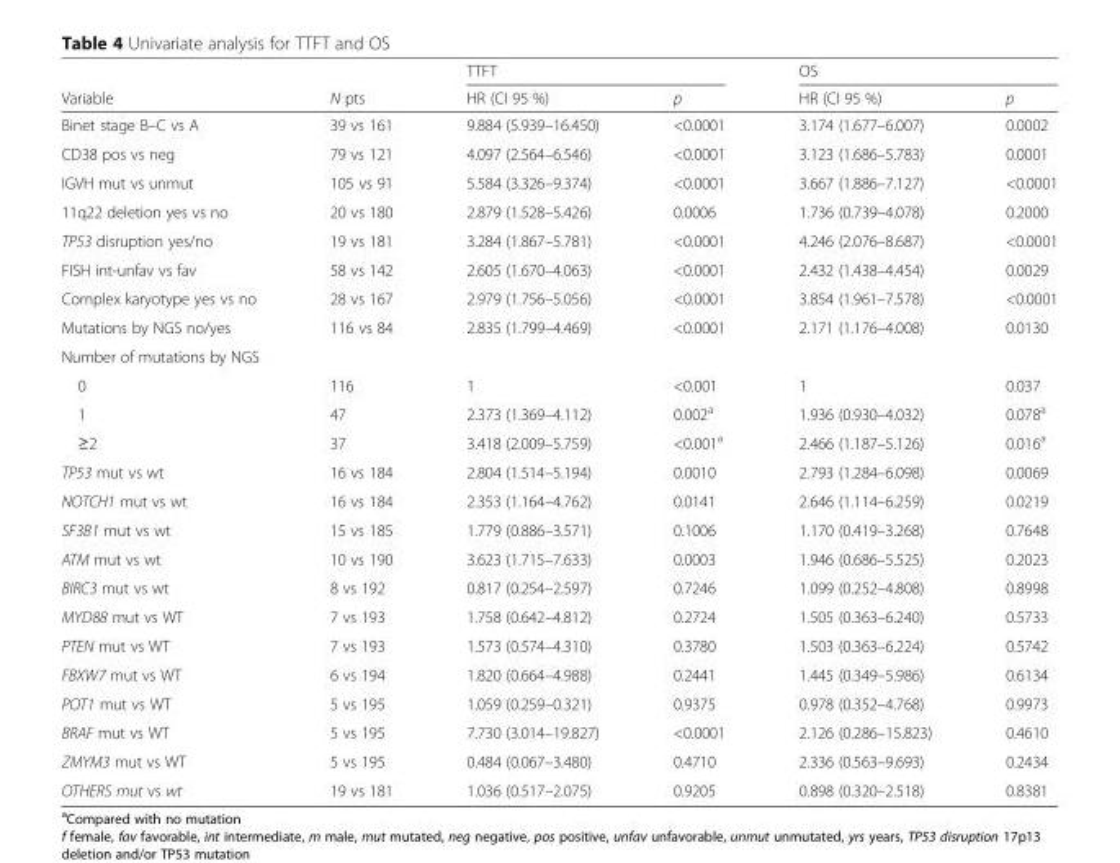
<table><thead><tr><td rowspan="2">Variable</td><td rowspan="2">N pts</td><td colspan="2">TTFT</td><td colspan="2">OS</td></tr><tr><td>HR (CI 95 %)</td><td>p</td><td>HR (CI 95 %)</td><td>p</td></tr></thead><tbody><tr><td>Binet stage B–C vs A</td><td>39 vs 161</td><td>9.884 (5.939–16.450)</td><td>&lt;0.0001</td><td>3.174 (1.677–6.007)</td><td>0.0002</td></tr><tr><td>CD38 pos vs neg</td><td>79 vs 121</td><td>4.097 (2.564–6.546)</td><td>&lt;0.0001</td><td>3.123 (1.686–5.783)</td><td>0.0001</td></tr><tr><td>IGVH mut vs unmut</td><td>105 vs 91</td><td>5.584 (3.326–9.374)</td><td>&lt;0.0001</td><td>3.667 (1.886–7.127)</td><td>&lt;0.0001</td></tr><tr><td>11q22 deletion yes vs no</td><td>20 vs 180</td><td>2.879 (1.528–5.426)</td><td>0.0006</td><td>1.736 (0.739–4.078)</td><td>0.2000</td></tr><tr><td>TP53 disruption yes/no</td><td>19 vs 181</td><td>3.284 (1.867–5.781)</td><td>&lt;0.0001</td><td>4.246 (2.076–8.687)</td><td>&lt;0.0001</td></tr><tr><td>FISH int-unfav vs fav</td><td>58 vs 142</td><td>2.605 (1.670–4.063)</td><td>&lt;0.0001</td><td>2.432 (1.438–4.454)</td><td>0.0029</td></tr><tr><td>Complex karyotype yes vs no</td><td>28 vs 167</td><td>2.979 (1.756–5.056)</td><td>&lt;0.0001</td><td>3.854 (1.961–7.578)</td><td>&lt;0.0001</td></tr><tr><td>Mutations by NGS no/yes</td><td>116 vs 84</td><td>2.835 (1.799–4.469)</td><td>&lt;0.0001</td><td>2.171 (1.176–4.008)</td><td>0.0130</td></tr><tr><td colspan="6">Number of mutations by NGS</td></tr><tr><td>0</td><td>116</td><td>1</td><td>&lt;0.001</td><td>1</td><td>0.037</td></tr><tr><td>1</td><td>47</td><td>2.373 (1.369–4.112)</td><td>0.002<sup>a</sup></td><td>1.936 (0.930–4.032)</td><td>0.078<sup>a</sup></td></tr><tr><td>≥2</td><td>37</td><td>3.418 (2.009–5.759)</td><td>&lt;0.001<sup>a</sup></td><td>2.466 (1.187–5.126)</td><td>0.016<sup>a</sup></td></tr><tr><td>TP53 mut vs wt</td><td>16 vs 184</td><td>2.804 (1.514–5.194)</td><td>0.0010</td><td>2.793 (1.284–6.098)</td><td>0.0069</td></tr><tr><td>NOTCH1 mut vs wt</td><td>16 vs 184</td><td>2.353 (1.164–4.762)</td><td>0.0141</td><td>2.646 (1.114–6.259)</td><td>0.0219</td></tr><tr><td>SF3B1 mut vs wt</td><td>15 vs 185</td><td>1.779 (0.886–3.571)</td><td>0.1006</td><td>1.170 (0.419–3.268)</td><td>0.7648</td></tr><tr><td>ATM mut vs wt</td><td>10 vs 190</td><td>3.623 (1.715–7.633)</td><td>0.0003</td><td>1.946 (0.686–5.525)</td><td>0.2023</td></tr><tr><td>BIRC3 mut vs wt</td><td>8 vs 192</td><td>0.817 (0.254–2.597)</td><td>0.7246</td><td>1.099 (0.252–4.808)</td><td>0.8998</td></tr><tr><td>MYD88 mut vs WT</td><td>7 vs 193</td><td>1.758 (0.642–4.812)</td><td>0.2724</td><td>1.505 (0.363–6.240)</td><td>0.5733</td></tr><tr><td>PTEN mut vs WT</td><td>7 vs 193</td><td>1.573 (0.574–4.310)</td><td>0.3780</td><td>1.503 (0.363–6.224)</td><td>0.5742</td></tr><tr><td>FBXW7 mut vs WT</td><td>6 vs 194</td><td>1.820 (0.664–4.988)</td><td>0.2441</td><td>1.445 (0.349–5.986)</td><td>0.6134</td></tr><tr><td>POT1 mut vs WT</td><td>5 vs 195</td><td>1.059 (0.259–0.321)</td><td>0.9375</td><td>0.978 (0.352–4.768)</td><td>0.9973</td></tr><tr><td>BRAF mut vs WT</td><td>5 vs 195</td><td>7.730 (3.014–19.827)</td><td>&lt;0.0001</td><td>2.126 (0.286–15.823)</td><td>0.4610</td></tr><tr><td>ZMYM3 mut vs WT</td><td>5 vs 195</td><td>0.484 (0.067–3.480)</td><td>0.4710</td><td>2.336 (0.563–9.693)</td><td>0.2434</td></tr><tr><td>OTHERS mut vs wt</td><td>19 vs 181</td><td>1.036 (0.517–2.075)</td><td>0.9205</td><td>0.898 (0.320–2.518)</td><td>0.8381</td></tr></tbody></table>